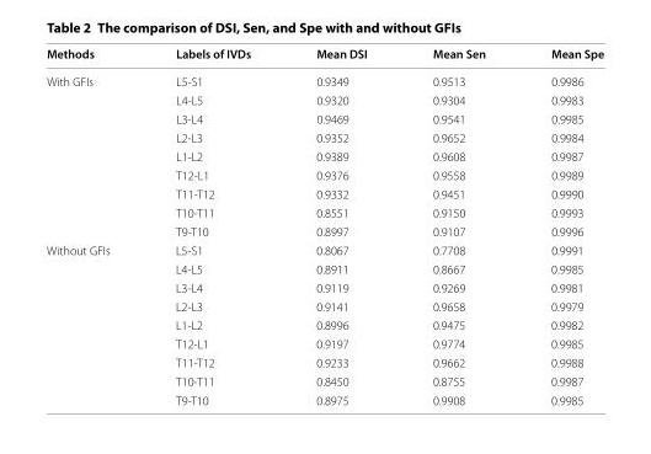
<table><thead><tr><td>Methods</td><td>Labels of IVDs</td><td>Mean DSI</td><td>Mean Sen</td><td>Mean Spe</td></tr></thead><tbody><tr><td rowspan="9">With GFIs</td><td>L5-S1</td><td>0.9349</td><td>0.9513</td><td>0.9986</td></tr><tr><td>L4-L5</td><td>0.9320</td><td>0.9304</td><td>0.9983</td></tr><tr><td>L3-L4</td><td>0.9469</td><td>0.9541</td><td>0.9985</td></tr><tr><td>L2-L3</td><td>0.9352</td><td>0.9652</td><td>0.9984</td></tr><tr><td>L1-L2</td><td>0.9389</td><td>0.9608</td><td>0.9987</td></tr><tr><td>T12-L1</td><td>0.9376</td><td>0.9558</td><td>0.9989</td></tr><tr><td>T11-T12</td><td>0.9332</td><td>0.9451</td><td>0.9990</td></tr><tr><td>T10-T11</td><td>0.8551</td><td>0.9150</td><td>0.9993</td></tr><tr><td>T9-T10</td><td>0.8997</td><td>0.9107</td><td>0.9996</td></tr><tr><td rowspan="9">Without GFIs</td><td>L5-S1</td><td>0.8067</td><td>0.7708</td><td>0.9991</td></tr><tr><td>L4-L5</td><td>0.8911</td><td>0.8667</td><td>0.9985</td></tr><tr><td>L3-L4</td><td>0.9119</td><td>0.9269</td><td>0.9981</td></tr><tr><td>L2-L3</td><td>0.9141</td><td>0.9658</td><td>0.9979</td></tr><tr><td>L1-L2</td><td>0.8996</td><td>0.9475</td><td>0.9982</td></tr><tr><td>T12-L1</td><td>0.9197</td><td>0.9774</td><td>0.9985</td></tr><tr><td>T11-T12</td><td>0.9233</td><td>0.9662</td><td>0.9988</td></tr><tr><td>T10-T11</td><td>0.8450</td><td>0.8755</td><td>0.9987</td></tr><tr><td>T9-T10</td><td>0.8975</td><td>0.9908</td><td>0.9985</td></tr></tbody></table>